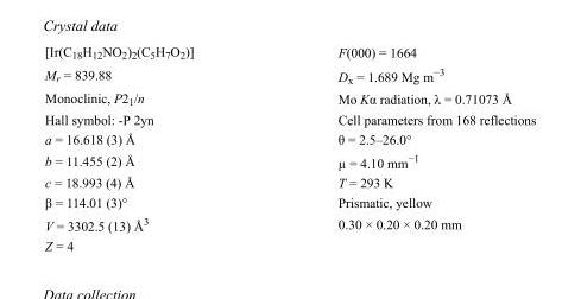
<table><tbody><tr><td>[Ir(C<sub>18</sub>H<sub>12</sub>NO<sub>2</sub>)<sub>2</sub>(C<sub>5</sub>H<sub>7</sub>O<sub>2</sub>)]</td><td>F(000) = 1664</td></tr><tr><td>M<sub>r</sub> = 839.88</td><td>D<sub>x</sub> = 1.689 Mg m<sup>−3</sup></td></tr><tr><td>Monoclinic, P2<sub>1</sub>/n</td><td>Mo Kα radiation, λ = 0.71073 Å</td></tr><tr><td>Hall symbol: -P 2yn</td><td>Cell parameters from 168 reflections</td></tr><tr><td>a = 16.618 (3) Å</td><td>θ = 2.5–26.0°</td></tr><tr><td>b = 11.455 (2) Å</td><td>µ = 4.10 mm<sup>−1</sup></td></tr><tr><td>c = 18.993 (4) Å</td><td>T = 293 K</td></tr><tr><td>β = 114.01 (3)°</td><td>Prismatic, yellow</td></tr><tr><td>V = 3302.5 (13) Å<sup>3</sup></td><td>0.30 × 0.20 × 0.20 mm</td></tr><tr><td>Z = 4</td><td></td></tr></tbody></table>